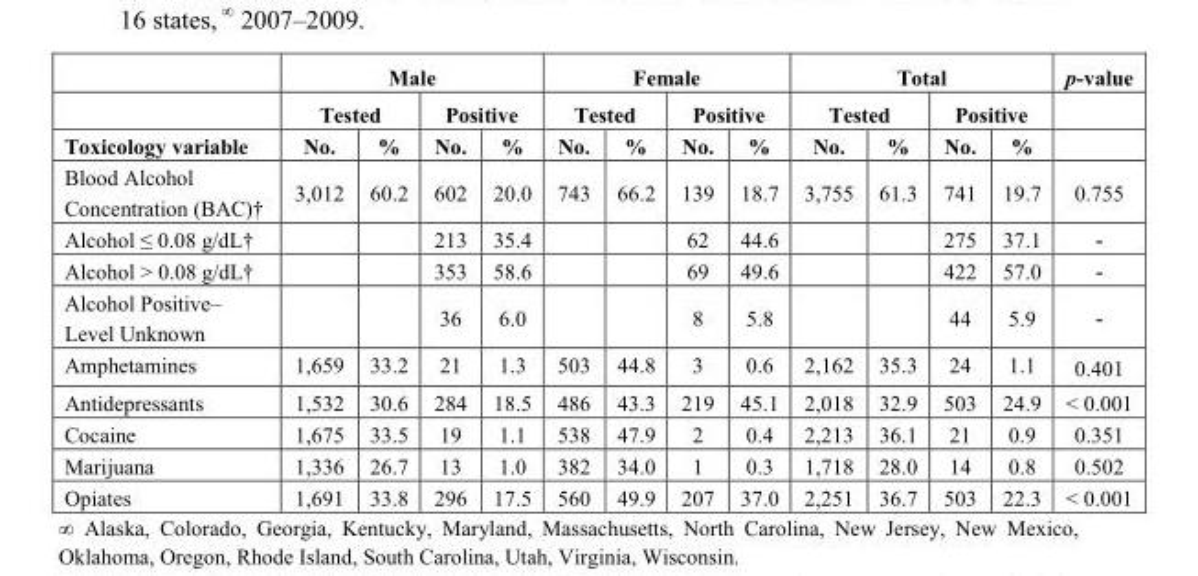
<table><thead><tr><td rowspan="3">Toxicology variable</td><td colspan="4">Male</td><td colspan="4">Female</td><td colspan="4">Total</td><td rowspan="3">p-value</td></tr><tr><td colspan="2">Tested</td><td colspan="2">Positive</td><td colspan="2">Tested</td><td colspan="2">Positive</td><td colspan="2">Tested</td><td colspan="2">Positive</td></tr><tr><td>No.</td><td>%</td><td>No.</td><td>%</td><td>No.</td><td>%</td><td>No.</td><td>%</td><td>No.</td><td>%</td><td>No.</td><td>%</td></tr></thead><tbody><tr><td>Blood Alcohol Concentration (BAC)†</td><td>3,012</td><td>60.2</td><td>602</td><td>20.0</td><td>743</td><td>66.2</td><td>139</td><td>18.7</td><td>3,755</td><td>61.3</td><td>741</td><td>19.7</td><td>0.755</td></tr><tr><td>Alcohol ≤ 0.08 g/dL†</td><td></td><td></td><td>213</td><td>35.4</td><td></td><td></td><td>62</td><td>44.6</td><td></td><td></td><td>275</td><td>37.1</td><td>-</td></tr><tr><td>Alcohol &gt; 0.08 g/dL†</td><td></td><td></td><td>353</td><td>58.6</td><td></td><td></td><td>69</td><td>49.6</td><td></td><td></td><td>422</td><td>57.0</td><td>-</td></tr><tr><td>Alcohol Positive– Level Unknown</td><td></td><td></td><td>36</td><td>6.0</td><td></td><td></td><td>8</td><td>5.8</td><td></td><td></td><td>44</td><td>5.9</td><td>-</td></tr><tr><td>Amphetamines</td><td>1,659</td><td>33.2</td><td>21</td><td>1.3</td><td>503</td><td>44.8</td><td>3</td><td>0.6</td><td>2,162</td><td>35.3</td><td>24</td><td>1.1</td><td>0.401</td></tr><tr><td>Antidepressants</td><td>1,532</td><td>30.6</td><td>284</td><td>18.5</td><td>486</td><td>43.3</td><td>219</td><td>45.1</td><td>2,018</td><td>32.9</td><td>503</td><td>24.9</td><td>&lt; 0.001</td></tr><tr><td>Cocaine</td><td>1,675</td><td>33.5</td><td>19</td><td>1.1</td><td>538</td><td>47.9</td><td>2</td><td>0.4</td><td>2,213</td><td>36.1</td><td>21</td><td>0.9</td><td>0.351</td></tr><tr><td>Marijuana</td><td>1,336</td><td>26.7</td><td>13</td><td>1.0</td><td>382</td><td>34.0</td><td>1</td><td>0.3</td><td>1,718</td><td>28.0</td><td>14</td><td>0.8</td><td>0.502</td></tr><tr><td>Opiates</td><td>1,691</td><td>33.8</td><td>296</td><td>17.5</td><td>560</td><td>49.9</td><td>207</td><td>37.0</td><td>2,251</td><td>36.7</td><td>503</td><td>22.3</td><td>&lt; 0.001</td></tr></tbody></table>